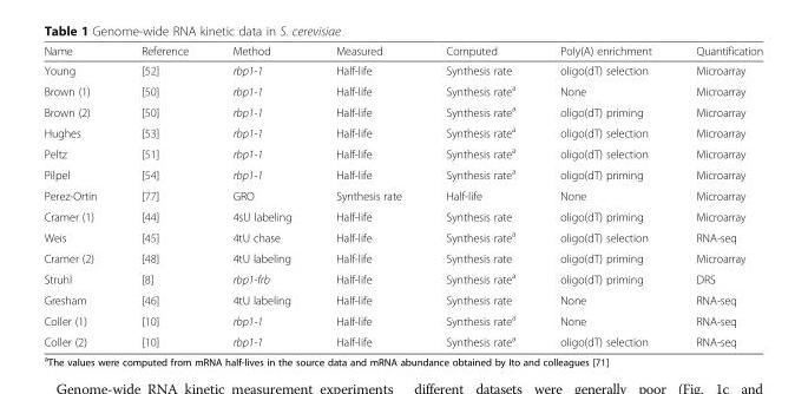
<table><thead><tr><td>Name</td><td>Reference</td><td>Method</td><td>Measured</td><td>Computed</td><td>Poly(A) enrichment</td><td>Quantification</td></tr></thead><tbody><tr><td>Young</td><td>[52]</td><td>rbp1-1</td><td>Half-life</td><td>Synthesis rate</td><td>oligo(dT) selection</td><td>Microarray</td></tr><tr><td>Brown (1)</td><td>[50]</td><td>rbp1-1</td><td>Half-life</td><td>Synthesis rate<sup>a</sup></td><td>None</td><td>Microarray</td></tr><tr><td>Brown (2)</td><td>[50]</td><td>rbp1-1</td><td>Half-life</td><td>Synthesis rate<sup>a</sup></td><td>oligo(dT) priming</td><td>Microarray</td></tr><tr><td>Hughes</td><td>[53]</td><td>rbp1-1</td><td>Half-life</td><td>Synthesis rate<sup>a</sup></td><td>oligo(dT) selection</td><td>Microarray</td></tr><tr><td>Peltz</td><td>[51]</td><td>rbp1-1</td><td>Half-life</td><td>Synthesis rate<sup>a</sup></td><td>oligo(dT) selection</td><td>Microarray</td></tr><tr><td>Pilpel</td><td>[54]</td><td>rbp1-1</td><td>Half-life</td><td>Synthesis rate<sup>a</sup></td><td>oligo(dT) priming</td><td>Microarray</td></tr><tr><td>Perez-Ortin</td><td>[77]</td><td>GRO</td><td>Synthesis rate</td><td>Half-life</td><td>None</td><td>Microarray</td></tr><tr><td>Cramer (1)</td><td>[44]</td><td>4sU labeling</td><td>Half-life</td><td>Synthesis rate</td><td>oligo(dT) priming</td><td>Microarray</td></tr><tr><td>Weis</td><td>[45]</td><td>4tU chase</td><td>Half-life</td><td>Synthesis rate<sup>a</sup></td><td>oligo(dT) selection</td><td>RNA-seq</td></tr><tr><td>Cramer (2)</td><td>[48]</td><td>4tU labeling</td><td>Half-life</td><td>Synthesis rate</td><td>oligo(dT) priming</td><td>Microarray</td></tr><tr><td>Struhl</td><td>[8]</td><td>rbp1-frb</td><td>Half-life</td><td>Synthesis rate<sup>a</sup></td><td>oligo(dT) priming</td><td>DRS</td></tr><tr><td>Gresham</td><td>[46]</td><td>4tU labeling</td><td>Half-life</td><td>Synthesis rate</td><td>None</td><td>RNA-seq</td></tr><tr><td>Coller (1)</td><td>[10]</td><td>rbp1-1</td><td>Half-life</td><td>Synthesis rate<sup>a</sup></td><td>None</td><td>RNA-seq</td></tr><tr><td>Coller (2)</td><td>[10]</td><td>rbp1-1</td><td>Half-life</td><td>Synthesis rate<sup>a</sup></td><td>oligo(dT) selection</td><td>RNA-seq</td></tr></tbody></table>